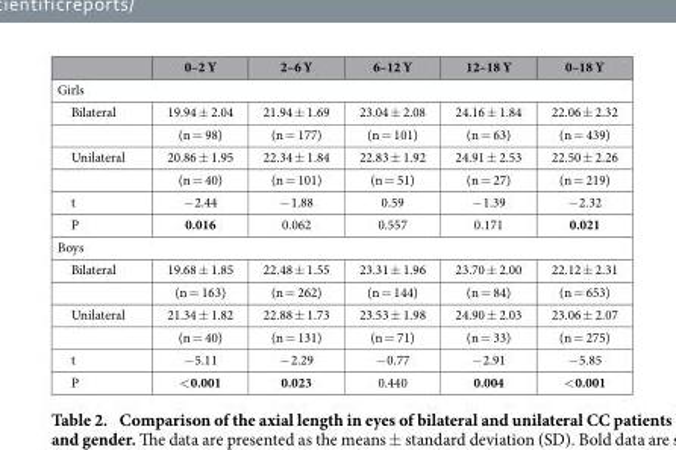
<table><thead><tr><td></td><td>0–2 Y</td><td>2–6 Y</td><td>6–12 Y</td><td>12–18 Y</td><td>0–18 Y</td></tr></thead><tbody><tr><td colspan="6">Girls</td></tr><tr><td rowspan="2">Bilateral</td><td>19.94 ± 2.04</td><td>21.94 ± 1.69</td><td>23.04 ± 2.08</td><td>24.16 ± 1.84</td><td>22.06 ± 2.32</td></tr><tr><td>(n = 98)</td><td>(n = 177)</td><td>(n = 101)</td><td>(n = 63)</td><td>(n = 439)</td></tr><tr><td rowspan="2">Unilateral</td><td>20.86 ± 1.95</td><td>22.34 ± 1.84</td><td>22.83 ± 1.92</td><td>24.91 ± 2.53</td><td>22.50 ± 2.26</td></tr><tr><td>(n = 40)</td><td>(n = 101)</td><td>(n = 51)</td><td>(n = 27)</td><td>(n = 219)</td></tr><tr><td>t</td><td>− 2.44</td><td>− 1.88</td><td>0.59</td><td>− 1.39</td><td>− 2.32</td></tr><tr><td>P</td><td>0.016</td><td>0.062</td><td>0.557</td><td>0.171</td><td>0.021</td></tr><tr><td colspan="6">Boys</td></tr><tr><td rowspan="2">Bilateral</td><td>19.68 ± 1.85</td><td>22.48 ± 1.55</td><td>23.31 ± 1.96</td><td>23.70 ± 2.00</td><td>22.12 ± 2.31</td></tr><tr><td>(n = 163)</td><td>(n = 262)</td><td>(n = 144)</td><td>(n = 84)</td><td>(n = 653)</td></tr><tr><td rowspan="2">Unilateral</td><td>21.34 ± 1.82</td><td>22.88 ± 1.73</td><td>23.53 ± 1.98</td><td>24.90 ± 2.03</td><td>23.06 ± 2.07</td></tr><tr><td>(n = 40)</td><td>(n = 131)</td><td>(n = 71)</td><td>(n = 33)</td><td>(n = 275)</td></tr><tr><td>t</td><td>− 5.11</td><td>− 2.29</td><td>− 0.77</td><td>− 2.91</td><td>− 5.85</td></tr><tr><td>P</td><td>&lt; 0.001</td><td>0.023</td><td>0.440</td><td>0.004</td><td>&lt; 0.001</td></tr></tbody></table>